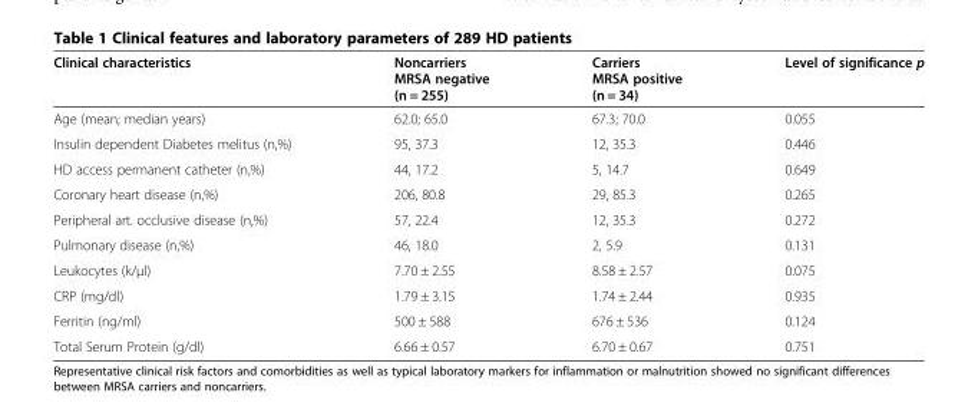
<table><thead><tr><td>Clinical characteristics</td><td>Noncarriers MRSA negative (n = 255)</td><td>Carriers MRSA positive (n = 34)</td><td>Level of significance p</td></tr></thead><tbody><tr><td>Age (mean; median years)</td><td>62.0; 65.0</td><td>67.3; 70.0</td><td>0.055</td></tr><tr><td>Insulin dependent Diabetes melitus (n,%)</td><td>95, 37.3</td><td>12, 35.3</td><td>0.446</td></tr><tr><td>HD access permanent catheter (n,%)</td><td>44, 17.2</td><td>5, 14.7</td><td>0.649</td></tr><tr><td>Coronary heart disease (n,%)</td><td>206, 80.8</td><td>29, 85.3</td><td>0.265</td></tr><tr><td>Peripheral art. occlusive disease (n,%)</td><td>57, 22.4</td><td>12, 35.3</td><td>0.272</td></tr><tr><td>Pulmonary disease (n,%)</td><td>46, 18.0</td><td>2, 5.9</td><td>0.131</td></tr><tr><td>Leukocytes (k/μl)</td><td>7.70 ± 2.55</td><td>8.58 ± 2.57</td><td>0.075</td></tr><tr><td>CRP (mg/dl)</td><td>1.79 ± 3.15</td><td>1.74 ± 2.44</td><td>0.935</td></tr><tr><td>Ferritin (ng/ml)</td><td>500 ± 588</td><td>676 ± 536</td><td>0.124</td></tr><tr><td>Total Serum Protein (g/dl)</td><td>6.66 ± 0.57</td><td>6.70 ± 0.67</td><td>0.751</td></tr></tbody></table>